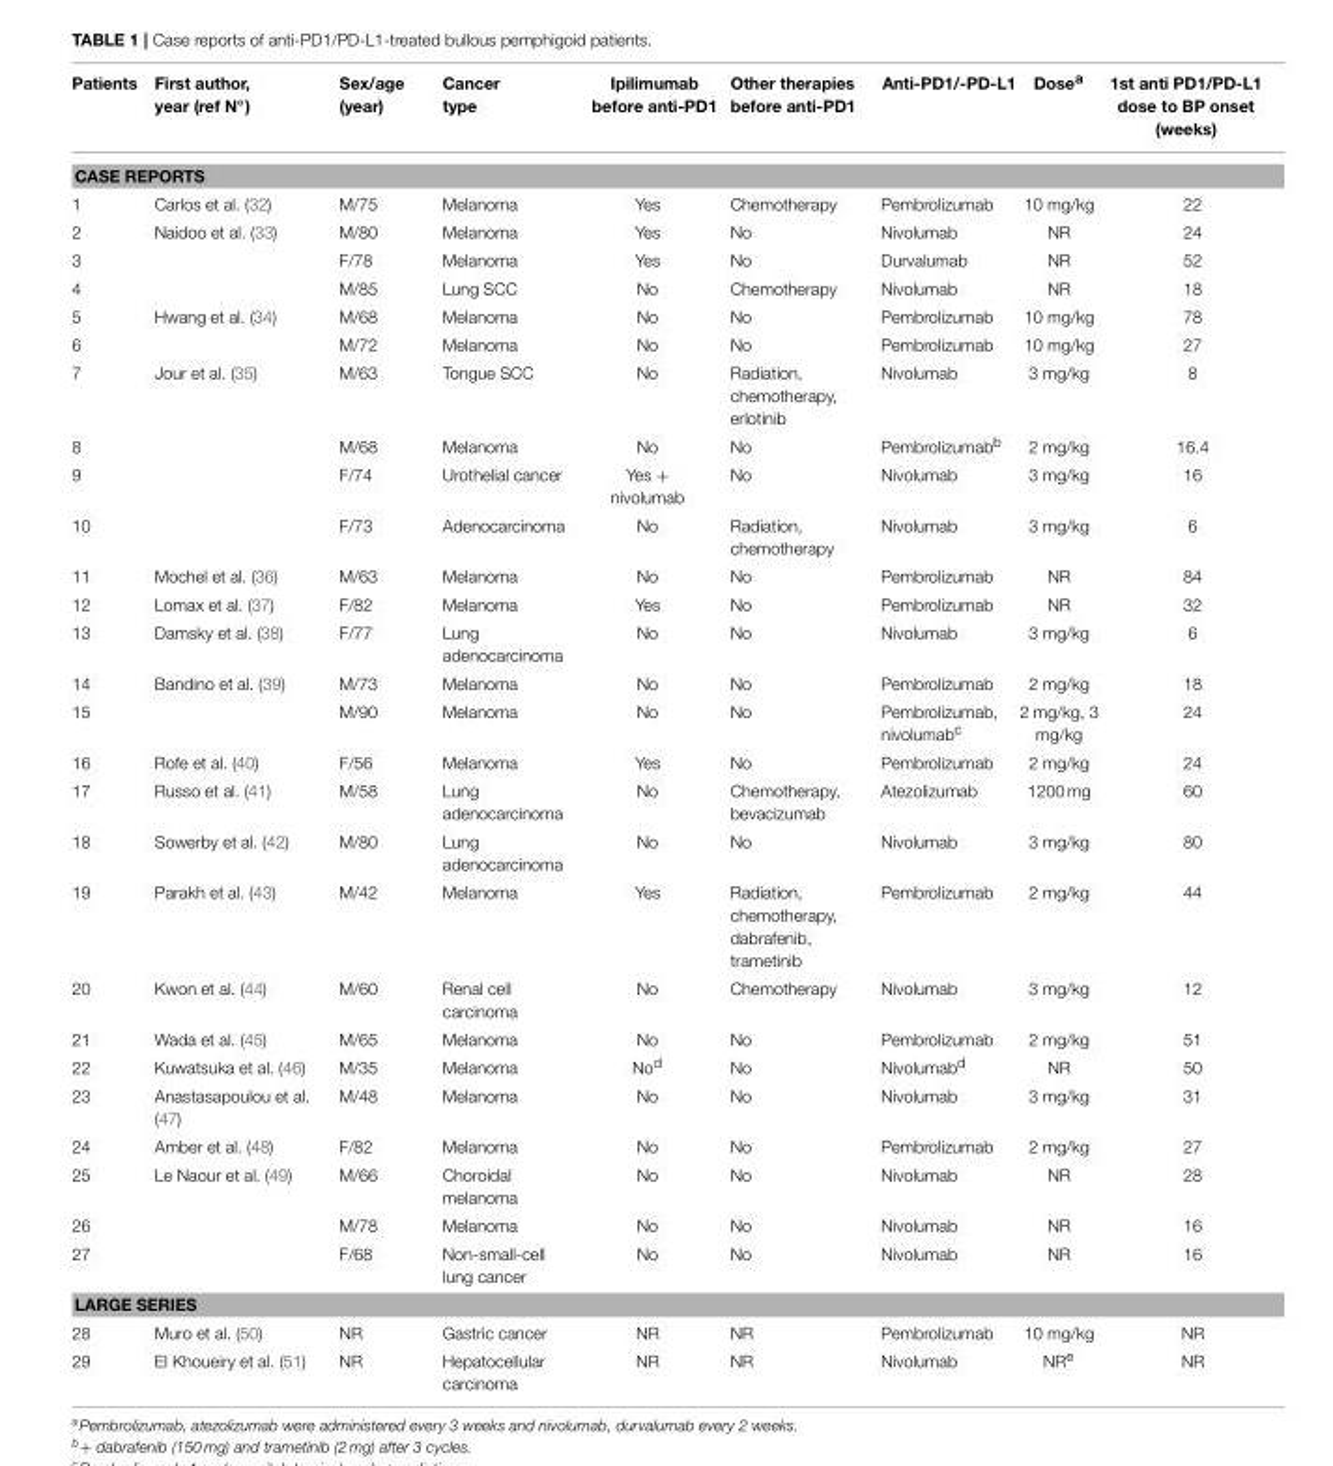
<table><thead><tr><td>Patients</td><td>First author, year (ref N◦)</td><td>Sex/age (year)</td><td>Cancer type</td><td>Ipilimumab before anti-PD1</td><td>Other therapies before anti-PD1</td><td>Anti-PD1/-PD-L1</td><td>Dose<sup>a</sup></td><td>1st anti PD1/PD-L1 dose to BP onset (weeks)</td></tr></thead><tbody><tr><td colspan="9">CASE REPORTS</td></tr><tr><td>1</td><td>Carlos et al. (32)</td><td>M/75</td><td>Melanoma</td><td>Yes</td><td>Chemotherapy</td><td>Pembrolizumab</td><td>10 mg/kg</td><td>22</td></tr><tr><td>2</td><td>Naidoo et al. (33)</td><td>M/80</td><td>Melanoma</td><td>Yes</td><td>No</td><td>Nivolumab</td><td>NR</td><td>24</td></tr><tr><td>3</td><td></td><td>F/78</td><td>Melanoma</td><td>Yes</td><td>No</td><td>Durvalumab</td><td>NR</td><td>52</td></tr><tr><td>4</td><td></td><td>M/85</td><td>Lung SCC</td><td>No</td><td>Chemotherapy</td><td>Nivolumab</td><td>NR</td><td>18</td></tr><tr><td>5</td><td>Hwang et al. (34)</td><td>M/68</td><td>Melanoma</td><td>No</td><td>No</td><td>Pembrolizumab</td><td>10 mg/kg</td><td>78</td></tr><tr><td>6</td><td></td><td>M/72</td><td>Melanoma</td><td>No</td><td>No</td><td>Pembrolizumab</td><td>10 mg/kg</td><td>27</td></tr><tr><td>7</td><td>Jour et al. (35)</td><td>M/63</td><td>Tongue SCC</td><td>No</td><td>Radiation, chemotherapy, erlotinib</td><td>Nivolumab</td><td>3 mg/kg</td><td>8</td></tr><tr><td>8</td><td></td><td>M/68</td><td>Melanoma</td><td>No</td><td>No</td><td>Pembrolizumab<sup>b</sup></td><td>2 mg/kg</td><td>16.4</td></tr><tr><td>9</td><td></td><td>F/74</td><td>Urothelial cancer</td><td>Yes + nivolumab</td><td>No</td><td>Nivolumab</td><td>3 mg/kg</td><td>16</td></tr><tr><td>10</td><td></td><td>F/73</td><td>Adenocarcinoma</td><td>No</td><td>Radiation, chemotherapy</td><td>Nivolumab</td><td>3 mg/kg</td><td>6</td></tr><tr><td>11</td><td>Mochel et al. (36)</td><td>M/63</td><td>Melanoma</td><td>No</td><td>No</td><td>Pembrolizumab</td><td>NR</td><td>84</td></tr><tr><td>12</td><td>Lomax et al. (37)</td><td>F/82</td><td>Melanoma</td><td>Yes</td><td>No</td><td>Pembrolizumab</td><td>NR</td><td>32</td></tr><tr><td>13</td><td>Damsky et al. (38)</td><td>F/77</td><td>Lung adenocarcinoma</td><td>No</td><td>No</td><td>Nivolumab</td><td>3 mg/kg</td><td>6</td></tr><tr><td>14</td><td>Bandino et al. (39)</td><td>M/73</td><td>Melanoma</td><td>No</td><td>No</td><td>Pembrolizumab</td><td>2 mg/kg</td><td>18</td></tr><tr><td>15</td><td></td><td>M/90</td><td>Melanoma</td><td>No</td><td>No</td><td>Pembrolizumab, nivolumab<sup>c</sup></td><td>2 mg/kg, 3 mg/kg</td><td>24</td></tr><tr><td>16</td><td>Rofe et al. (40)</td><td>F/56</td><td>Melanoma</td><td>Yes</td><td>No</td><td>Pembrolizumab</td><td>2 mg/kg</td><td>24</td></tr><tr><td>17</td><td>Russo et al. (41)</td><td>M/58</td><td>Lung adenocarcinoma</td><td>No</td><td>Chemotherapy, bevacizumab</td><td>Atezolizumab</td><td>1200 mg</td><td>60</td></tr><tr><td>18</td><td>Sowerby et al. (42)</td><td>M/80</td><td>Lung adenocarcinoma</td><td>No</td><td>No</td><td>Nivolumab</td><td>3 mg/kg</td><td>80</td></tr><tr><td>19</td><td>Parakh et al. (43)</td><td>M/42</td><td>Melanoma</td><td>Yes</td><td>Radiation, chemotherapy, dabrafenib, trametinib</td><td>Pembrolizumab</td><td>2 mg/kg</td><td>44</td></tr><tr><td>20</td><td>Kwon et al. (44)</td><td>M/60</td><td>Renal cell carcinoma</td><td>No</td><td>Chemotherapy</td><td>Nivolumab</td><td>3 mg/kg</td><td>12</td></tr><tr><td>21</td><td>Wada et al. (45)</td><td>M/65</td><td>Melanoma</td><td>No</td><td>No</td><td>Pembrolizumab</td><td>2 mg/kg</td><td>51</td></tr><tr><td>22</td><td>Kuwatsuka et al. (46)</td><td>M/35</td><td>Melanoma</td><td>No<sup>d</sup></td><td>No</td><td>Nivolumab<sup>d</sup></td><td>NR</td><td>50</td></tr><tr><td>23</td><td>Anastasapoulou et al. (47)</td><td>M/48</td><td>Melanoma</td><td>No</td><td>No</td><td>Nivolumab</td><td>3 mg/kg</td><td>31</td></tr><tr><td>24</td><td>Amber et al. (48)</td><td>F/82</td><td>Melanoma</td><td>No</td><td>No</td><td>Pembrolizumab</td><td>2 mg/kg</td><td>27</td></tr><tr><td>25</td><td>Le Naour et al. (49)</td><td>M/66</td><td>Choroidal melanoma</td><td>No</td><td>No</td><td>Nivolumab</td><td>NR</td><td>28</td></tr><tr><td>26</td><td></td><td>M/78</td><td>Melanoma</td><td>No</td><td>No</td><td>Nivolumab</td><td>NR</td><td>16</td></tr><tr><td>27</td><td></td><td>F/68</td><td>Non-small-cell lung cancer</td><td>No</td><td>No</td><td>Nivolumab</td><td>NR</td><td>16</td></tr><tr><td colspan="9">LARGE SERIES</td></tr><tr><td>28</td><td>Muro et al. (50)</td><td>NR</td><td>Gastric cancer</td><td>NR</td><td>NR</td><td>Pembrolizumab</td><td>10 mg/kg</td><td>NR</td></tr><tr><td>29</td><td>El Khoueiry et al. (51)</td><td>NR</td><td>Hepatocellular carcinoma</td><td>NR</td><td>NR</td><td>Nivolumab</td><td>NR<sup>e</sup></td><td>NR</td></tr></tbody></table>